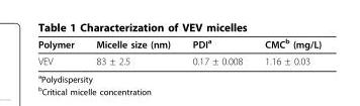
<table><thead><tr><td>Polymer</td><td>Micelle size (nm)</td><td>PDI<sup>a</sup></td><td>CMC<sup>b</sup> (mg/L)</td></tr></thead><tbody><tr><td>VEV</td><td>83 ± 2.5</td><td>0.17 ± 0.008</td><td>1.16 ± 0.03</td></tr></tbody></table>